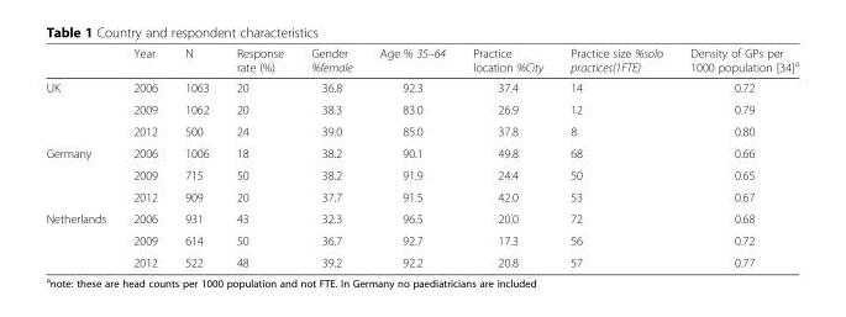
<table><thead><tr><td></td><td>Year</td><td>N</td><td>Response rate (%)</td><td>Gender %female</td><td>Age % 35–64</td><td>Practice location %City</td><td>Practice size %solo practices(1FTE)</td><td>Density of GPs per 1000 population [34]<sup>a</sup></td></tr></thead><tbody><tr><td rowspan="3">UK</td><td>2006</td><td>1063</td><td>20</td><td>36.8</td><td>92.3</td><td>37.4</td><td>14</td><td>0.72</td></tr><tr><td>2009</td><td>1062</td><td>20</td><td>38.3</td><td>83.0</td><td>26.9</td><td>12</td><td>0.79</td></tr><tr><td>2012</td><td>500</td><td>24</td><td>39.0</td><td>85.0</td><td>37.8</td><td>8</td><td>0.80</td></tr><tr><td rowspan="3">Germany</td><td>2006</td><td>1006</td><td>18</td><td>38.2</td><td>90.1</td><td>49.8</td><td>68</td><td>0.66</td></tr><tr><td>2009</td><td>715</td><td>50</td><td>38.2</td><td>91.9</td><td>24.4</td><td>50</td><td>0.65</td></tr><tr><td>2012</td><td>909</td><td>20</td><td>37.7</td><td>91.5</td><td>42.0</td><td>53</td><td>0.67</td></tr><tr><td rowspan="3">Netherlands</td><td>2006</td><td>931</td><td>43</td><td>32.3</td><td>96.5</td><td>20.0</td><td>72</td><td>0.68</td></tr><tr><td>2009</td><td>614</td><td>50</td><td>36.7</td><td>92.7</td><td>17.3</td><td>56</td><td>0.72</td></tr><tr><td>2012</td><td>522</td><td>48</td><td>39.2</td><td>92.2</td><td>20.8</td><td>57</td><td>0.77</td></tr></tbody></table>